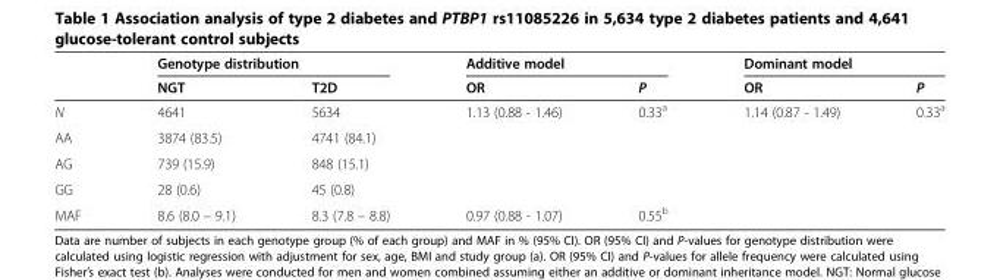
<table><thead><tr><td rowspan="2"></td><td colspan="2">Genotype distribution</td><td colspan="2">Additive model</td><td colspan="2">Dominant model</td></tr><tr><td>NGT</td><td>T2D</td><td>OR</td><td>P</td><td>OR</td><td>P</td></tr></thead><tbody><tr><td>N</td><td>4641</td><td>5634</td><td>1.13 (0.88 - 1.46)</td><td>0.33<sup>a</sup></td><td>1.14 (0.87 - 1.49)</td><td>0.33<sup>a</sup></td></tr><tr><td>AA</td><td>3874 (83.5)</td><td>4741 (84.1)</td><td></td><td></td><td></td><td></td></tr><tr><td>AG</td><td>739 (15.9)</td><td>848 (15.1)</td><td></td><td></td><td></td><td></td></tr><tr><td>GG</td><td>28 (0.6)</td><td>45 (0.8)</td><td></td><td></td><td></td><td></td></tr><tr><td>MAF</td><td>8.6 (8.0 – 9.1)</td><td>8.3 (7.8 – 8.8)</td><td>0.97 (0.88 - 1.07)</td><td>0.55<sup>b</sup></td><td></td><td></td></tr></tbody></table>